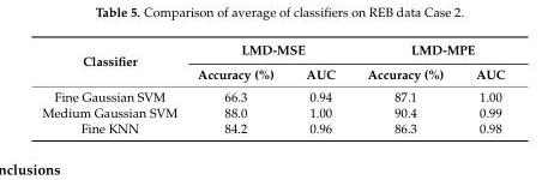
<table><thead><tr><td rowspan="2">Classifier</td><td colspan="2">LMD-MSE</td><td colspan="2">LMD-MPE</td></tr><tr><td>Accuracy (%)</td><td>AUC</td><td>Accuracy (%)</td><td>AUC</td></tr></thead><tbody><tr><td>Fine Gaussian SVM</td><td>66.3</td><td>0.94</td><td>87.1</td><td>1.00</td></tr><tr><td>Medium Gaussian SVM</td><td>88.0</td><td>1.00</td><td>90.4</td><td>0.99</td></tr><tr><td>Fine KNN</td><td>84.2</td><td>0.96</td><td>86.3</td><td>0.98</td></tr></tbody></table>